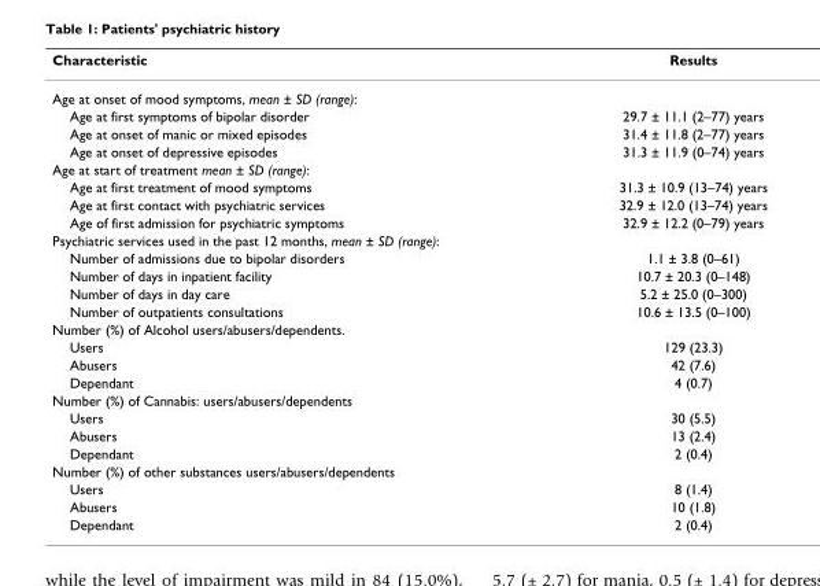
<table><thead><tr><td>Characteristic</td><td>Results</td></tr></thead><tbody><tr><td colspan="2">Age at onset of mood symptoms, mean ± SD (range):</td></tr><tr><td>Age at first symptoms of bipolar disorder</td><td>29.7 ± 11.1 (2–77) years</td></tr><tr><td>Age at onset of manic or mixed episodes</td><td>31.4 ± 11.8 (2–77) years</td></tr><tr><td>Age at onset of depressive episodes</td><td>31.3 ± 11.9 (0–74) years</td></tr><tr><td colspan="2">Age at start of treatment mean ± SD (range):</td></tr><tr><td>Age at first treatment of mood symptoms</td><td>31.3 ± 10.9 (13–74) years</td></tr><tr><td>Age at first contact with psychiatric services</td><td>32.9 ± 12.0 (13–74) years</td></tr><tr><td>Age of first admission for psychiatric symptoms</td><td>32.9 ± 12.2 (0–79) years</td></tr><tr><td colspan="2">Psychiatric services used in the past 12 months, mean ± SD (range):</td></tr><tr><td>Number of admissions due to bipolar disorders</td><td>1.1 ± 3.8 (0–61)</td></tr><tr><td>Number of days in inpatient facility</td><td>10.7 ± 20.3 (0–148)</td></tr><tr><td>Number of days in day care</td><td>5.2 ± 25.0 (0–300)</td></tr><tr><td>Number of outpatients consultations</td><td>10.6 ± 13.5 (0–100)</td></tr><tr><td colspan="2">Number (%) of Alcohol users/abusers/dependents.</td></tr><tr><td>Users</td><td>129 (23.3)</td></tr><tr><td>Abusers</td><td>42 (7.6)</td></tr><tr><td>Dependant</td><td>4 (0.7)</td></tr><tr><td colspan="2">Number (%) of Cannabis: users/abusers/dependents</td></tr><tr><td>Users</td><td>30 (5.5)</td></tr><tr><td>Abusers</td><td>13 (2.4)</td></tr><tr><td>Dependant</td><td>2 (0.4)</td></tr><tr><td colspan="2">Number (%) of other substances users/abusers/dependents</td></tr><tr><td>Users</td><td>8 (1.4)</td></tr><tr><td>Abusers</td><td>10 (1.8)</td></tr><tr><td>Dependant</td><td>2 (0.4)</td></tr></tbody></table>